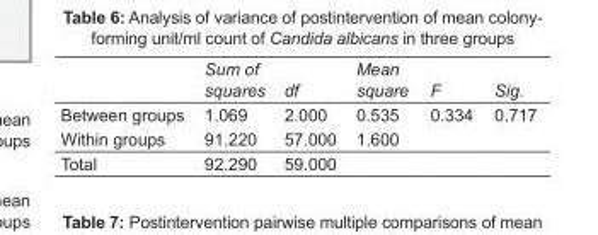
<table><thead><tr><td></td><td>Sum of squares</td><td>df</td><td>Mean square</td><td>F</td><td>Sig.</td></tr></thead><tbody><tr><td>Between groups</td><td>1.069</td><td>2.000</td><td>0.535</td><td>0.334</td><td>0.717</td></tr><tr><td>Within groups</td><td>91.220</td><td>57.000</td><td>1.600</td><td></td><td></td></tr><tr><td>Total</td><td>92.290</td><td>59.000</td><td></td><td></td><td></td></tr></tbody></table>